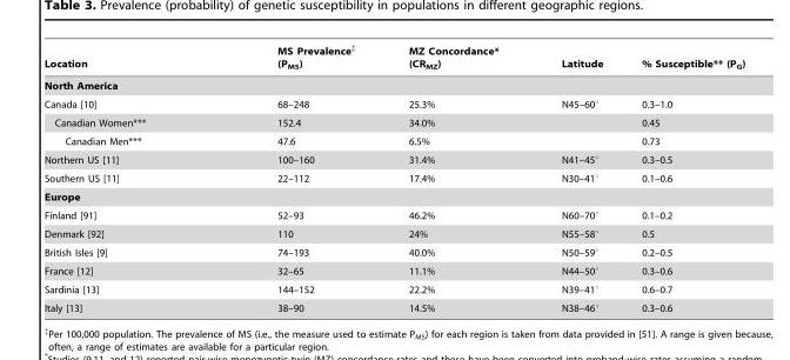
<table><thead><tr><td>Location</td><td>MS Prevalence‡ (P<sub>MS</sub>)</td><td>MZ Concordance* (CR<sub>MZ</sub>)</td><td>Latitude</td><td>% Susceptible** (P<sub>G</sub>)</td></tr></thead><tbody><tr><td colspan="5">North America</td></tr><tr><td>Canada [10]</td><td>68–248</td><td>25.3%</td><td>N45–60°</td><td>0.3–1.0</td></tr><tr><td>Canadian Women***</td><td>152.4</td><td>34.0%</td><td></td><td>0.45</td></tr><tr><td>Canadian Men***</td><td>47.6</td><td>6.5%</td><td></td><td>0.73</td></tr><tr><td>Northern US [11]</td><td>100–160</td><td>31.4%</td><td>N41–45°</td><td>0.3–0.5</td></tr><tr><td>Southern US [11]</td><td>22–112</td><td>17.4%</td><td>N30–41°</td><td>0.1–0.6</td></tr><tr><td colspan="5">Europe</td></tr><tr><td>Finland [91]</td><td>52–93</td><td>46.2%</td><td>N60–70°</td><td>0.1–0.2</td></tr><tr><td>Denmark [92]</td><td>110</td><td>24%</td><td>N55–58°</td><td>0.5</td></tr><tr><td>British Isles [9]</td><td>74–193</td><td>40.0%</td><td>N50–59°</td><td>0.2–0.5</td></tr><tr><td>France [12]</td><td>32–65</td><td>11.1%</td><td>N44–50°</td><td>0.3–0.6</td></tr><tr><td>Sardinia [13]</td><td>144–152</td><td>22.2%</td><td>N39–41°</td><td>0.6–0.7</td></tr><tr><td>Italy [13]</td><td>38–90</td><td>14.5%</td><td>N38–46°</td><td>0.3–0.6</td></tr></tbody></table>